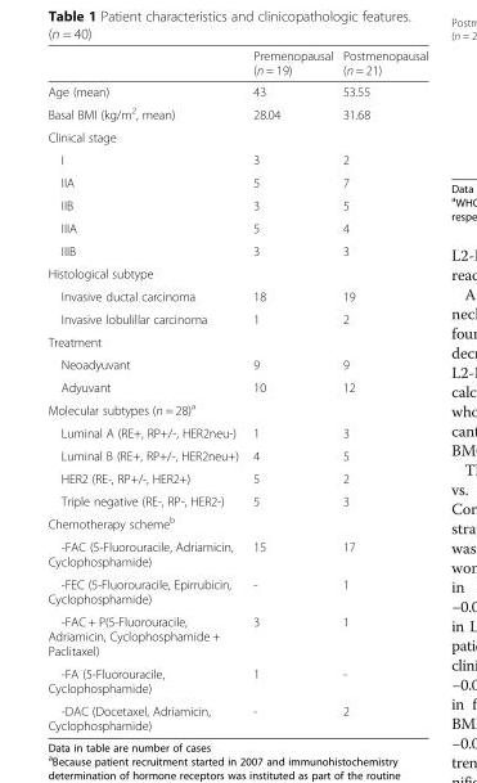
<table><thead><tr><td></td><td>Premenopausal (n = 19)</td><td>Postmenopausal (n = 21)</td></tr></thead><tbody><tr><td>Age (mean)</td><td>43</td><td>53.55</td></tr><tr><td>Basal BMI (kg/m<sup>2</sup>, mean)</td><td>28.04</td><td>31.68</td></tr><tr><td colspan="3">Clinical stage</td></tr><tr><td>I</td><td>3</td><td>2</td></tr><tr><td>IIA</td><td>5</td><td>7</td></tr><tr><td>IIB</td><td>3</td><td>5</td></tr><tr><td>IIIA</td><td>5</td><td>4</td></tr><tr><td>IIIB</td><td>3</td><td>3</td></tr><tr><td colspan="3">Histological subtype</td></tr><tr><td>Invasive ductal carcinoma</td><td>18</td><td>19</td></tr><tr><td>Invasive lobulillar carcinoma</td><td>1</td><td>2</td></tr><tr><td colspan="3">Treatment</td></tr><tr><td>Neoadyuvant</td><td>9</td><td>9</td></tr><tr><td>Adyuvant</td><td>10</td><td>12</td></tr><tr><td colspan="3">Molecular subtypes (n = 28)<sup>a</sup></td></tr><tr><td>Luminal A (RE+, RP+/-, HER2neu-)</td><td>1</td><td>3</td></tr><tr><td>Luminal B (RE+, RP+/-, HER2neu+)</td><td>4</td><td>5</td></tr><tr><td>HER2 (RE-, RP+/-, HER2+)</td><td>5</td><td>2</td></tr><tr><td>Triple negative (RE-, RP-, HER2-)</td><td>5</td><td>3</td></tr><tr><td colspan="3">Chemotherapy scheme<sup>b</sup></td></tr><tr><td>-FAC (5-Fluorouracile, Adriamicin, Cyclophosphamide)</td><td>15</td><td>17</td></tr><tr><td>-FEC (5-Fluorouracile, Epirrubicin, Cyclophosphamide)</td><td>-</td><td>1</td></tr><tr><td>-FAC + P(5-Fluorouracile, Adriamicin, Cyclophosphamide + Paclitaxel)</td><td>3</td><td>1</td></tr><tr><td>-FA (5-Fluorouracile, Cyclophosphamide)</td><td>1</td><td>-</td></tr><tr><td>-DAC (Docetaxel, Adriamicin, Cyclophosphamide)</td><td>-</td><td>2</td></tr></tbody></table>